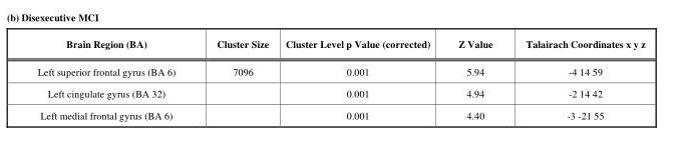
<table><thead><tr><td>Brain Region (BA)</td><td>Cluster Size</td><td>Cluster Level p Value (corrected)</td><td>Z Value</td><td>Talairach Coordinates x y z</td></tr></thead><tbody><tr><td>Left superior frontal gyrus (BA 6)</td><td>7096</td><td>0.001</td><td>5.94</td><td>-4 14 59</td></tr><tr><td>Left cingulate gyrus (BA 32)</td><td></td><td>0.001</td><td>4.94</td><td>-2 14 42</td></tr><tr><td>Left medial frontal gyrus (BA 6)</td><td></td><td>0.001</td><td>4.40</td><td>-3 -21 55</td></tr></tbody></table>